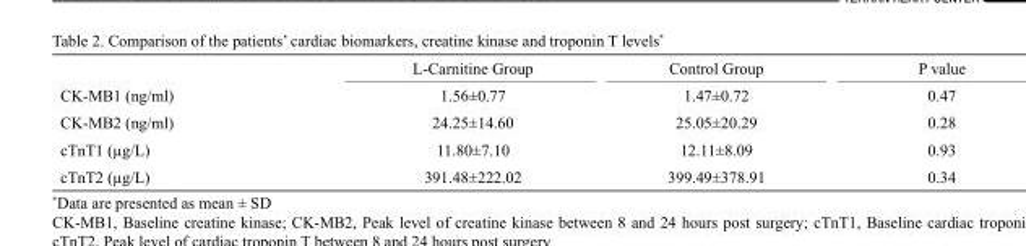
<table><thead><tr><td></td><td>L-Carnitine Group</td><td>Control Group</td><td>P value</td></tr></thead><tbody><tr><td>CK-MB1 (ng/ml)</td><td>1.56±0.77</td><td>1.47±0.72</td><td>0.47</td></tr><tr><td>CK-MB2 (ng/ml)</td><td>24.25±14.60</td><td>25.05±20.29</td><td>0.28</td></tr><tr><td>cTnT1 (µg/L)</td><td>11.80±7.10</td><td>12.11±8.09</td><td>0.93</td></tr><tr><td>cTnT2 (µg/L)</td><td>391.48±222.02</td><td>399.49±378.91</td><td>0.34</td></tr></tbody></table>